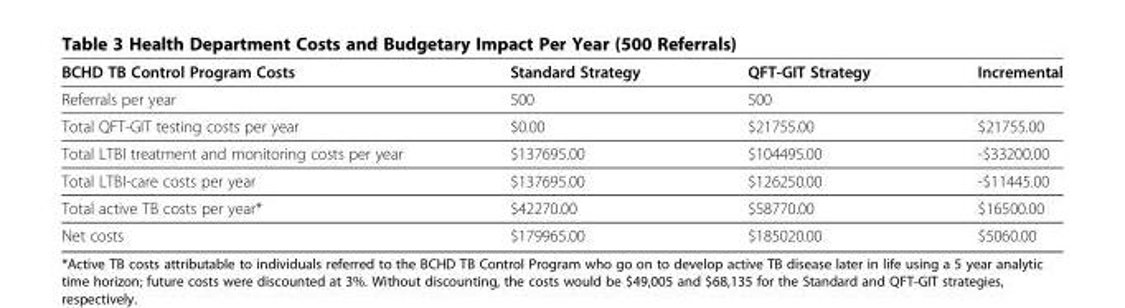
<table><thead><tr><td>BCHD TB Control Program Costs</td><td>Standard Strategy</td><td>QFT-GIT Strategy</td><td>Incremental</td></tr></thead><tbody><tr><td>Referrals per year</td><td>500</td><td>500</td><td></td></tr><tr><td>Total QFT-GIT testing costs per year</td><td>$0.00</td><td>$21755.00</td><td>$21755.00</td></tr><tr><td>Total LTBI treatment and monitoring costs per year</td><td>$137695.00</td><td>$104495.00</td><td>-$33200.00</td></tr><tr><td>Total LTBI-care costs per year</td><td>$137695.00</td><td>$126250.00</td><td>-$11445.00</td></tr><tr><td>Total active TB costs per year*</td><td>$42270.00</td><td>$58770.00</td><td>$16500.00</td></tr><tr><td>Net costs</td><td>$179965.00</td><td>$185020.00</td><td>$5060.00</td></tr></tbody></table>